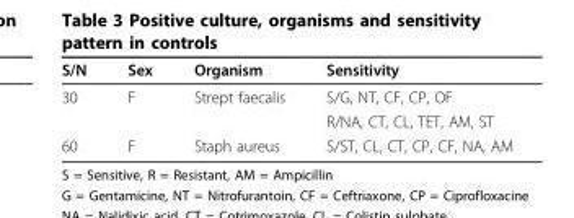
<table><thead><tr><td>S/N</td><td>Sex</td><td>Organism</td><td>Sensitivity</td></tr></thead><tbody><tr><td rowspan="2">30</td><td>F</td><td>Strept faecalis</td><td>S/G, NT, CF, CP, OF</td></tr><tr><td></td><td></td><td>R/NA, CT, CL, TET, AM, ST</td></tr><tr><td>60</td><td>F</td><td>Staph aureus</td><td>S/ST, CL, CT, CP, CF, NA, AM</td></tr></tbody></table>